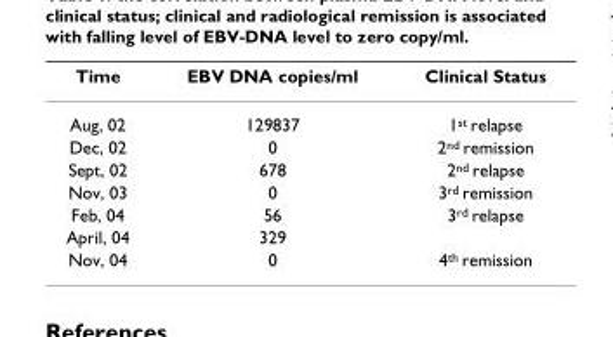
<table><thead><tr><td>Time</td><td>EBV DNA copies/ml</td><td>Clinical Status</td></tr></thead><tbody><tr><td>Aug, 02</td><td>129837</td><td>1st relapse</td></tr><tr><td>Dec, 02</td><td>0</td><td>2nd remission</td></tr><tr><td>Sept, 02</td><td>678</td><td>2nd relapse</td></tr><tr><td>Nov, 03</td><td>0</td><td>3rd remission</td></tr><tr><td>Feb, 04</td><td>56</td><td>3rd relapse</td></tr><tr><td>April, 04</td><td>329</td><td></td></tr><tr><td>Nov, 04</td><td>0</td><td>4th remission</td></tr></tbody></table>